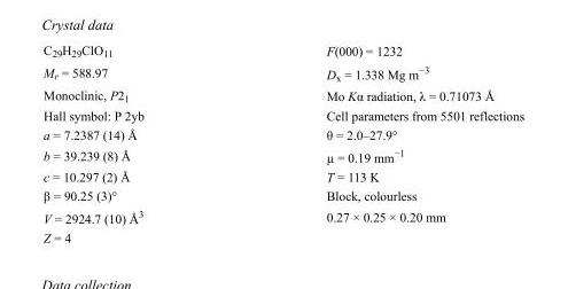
<table><tbody><tr><td>C<sub>29</sub>H<sub>29</sub>ClO<sub>11</sub></td><td>F(000) = 1232</td></tr><tr><td>M<sub>r</sub> = 588.97</td><td>D<sub>x</sub> = 1.338 Mg m<sup>−3</sup></td></tr><tr><td>Monoclinic, P2<sub>1</sub></td><td>Mo Kα radiation, λ = 0.71073 Å</td></tr><tr><td>Hall symbol: P 2yb</td><td>Cell parameters from 5501 reflections</td></tr><tr><td>a = 7.2387 (14) Å</td><td>θ = 2.0–27.9°</td></tr><tr><td>b = 39.239 (8) Å</td><td>µ = 0.19 mm<sup>−1</sup></td></tr><tr><td>c = 10.297 (2) Å</td><td>T = 113 K</td></tr><tr><td>β = 90.25 (3)°</td><td>Block, colourless</td></tr><tr><td>V = 2924.7 (10) Å<sup>3</sup></td><td>0.27 × 0.25 × 0.20 mm</td></tr><tr><td>Z = 4</td><td></td></tr></tbody></table>